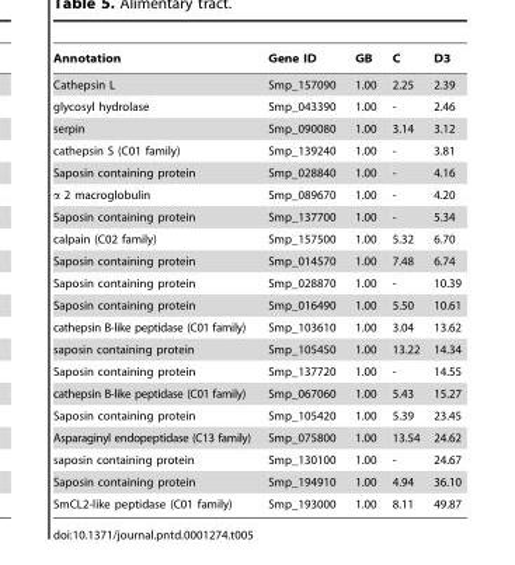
<table><thead><tr><td>Annotation</td><td>Gene ID</td><td>GB</td><td>C</td><td>D3</td></tr></thead><tbody><tr><td>Cathepsin L</td><td>Smp_157090</td><td>1.00</td><td>2.25</td><td>2.39</td></tr><tr><td>glycosyl hydrolase</td><td>Smp_043390</td><td>1.00</td><td>-</td><td>2.46</td></tr><tr><td>serpin</td><td>Smp_090080</td><td>1.00</td><td>3.14</td><td>3.12</td></tr><tr><td>cathepsin S (C01 family)</td><td>Smp_139240</td><td>1.00</td><td>-</td><td>3.81</td></tr><tr><td>Saposin containing protein</td><td>Smp_028840</td><td>1.00</td><td>-</td><td>4.16</td></tr><tr><td>α 2 macroglobulin</td><td>Smp_089670</td><td>1.00</td><td>-</td><td>4.20</td></tr><tr><td>Saposin containing protein</td><td>Smp_137700</td><td>1.00</td><td>-</td><td>5.34</td></tr><tr><td>calpain (C02 family)</td><td>Smp_157500</td><td>1.00</td><td>5.32</td><td>6.70</td></tr><tr><td>Saposin containing protein</td><td>Smp_014570</td><td>1.00</td><td>7.48</td><td>6.74</td></tr><tr><td>Saposin containing protein</td><td>Smp_028870</td><td>1.00</td><td>-</td><td>10.39</td></tr><tr><td>Saposin containing protein</td><td>Smp_016490</td><td>1.00</td><td>5.50</td><td>10.61</td></tr><tr><td>cathepsin B-like peptidase (C01 family)</td><td>Smp_103610</td><td>1.00</td><td>3.04</td><td>13.62</td></tr><tr><td>saposin containing protein</td><td>Smp_105450</td><td>1.00</td><td>13.22</td><td>14.34</td></tr><tr><td>Saposin containing protein</td><td>Smp_137720</td><td>1.00</td><td>-</td><td>14.55</td></tr><tr><td>cathepsin B-like peptidase (C01 family)</td><td>Smp_067060</td><td>1.00</td><td>5.43</td><td>15.27</td></tr><tr><td>Saposin containing protein</td><td>Smp_105420</td><td>1.00</td><td>5.39</td><td>23.45</td></tr><tr><td>Asparaginyl endopeptidase (C13 family)</td><td>Smp_075800</td><td>1.00</td><td>13.54</td><td>24.62</td></tr><tr><td>saposin containing protein</td><td>Smp_130100</td><td>1.00</td><td>-</td><td>24.67</td></tr><tr><td>Saposin containing protein</td><td>Smp_194910</td><td>1.00</td><td>4.94</td><td>36.10</td></tr><tr><td>SmCL2-like peptidase (C01 family)</td><td>Smp_193000</td><td>1.00</td><td>8.11</td><td>49.87</td></tr></tbody></table>